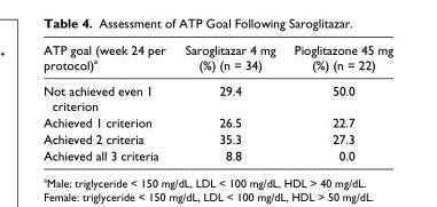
<table><thead><tr><td>ATP goal (week 24 per protocol)<sup>a</sup></td><td>Saroglitazar 4 mg (%) (n = 34)</td><td>Pioglitazone 45 mg (%) (n = 22)</td></tr></thead><tbody><tr><td>Not achieved even 1 criterion</td><td>29.4</td><td>50.0</td></tr><tr><td>Achieved 1 criterion</td><td>26.5</td><td>22.7</td></tr><tr><td>Achieved 2 criteria</td><td>35.3</td><td>27.3</td></tr><tr><td>Achieved all 3 criteria</td><td>8.8</td><td>0.0</td></tr></tbody></table>